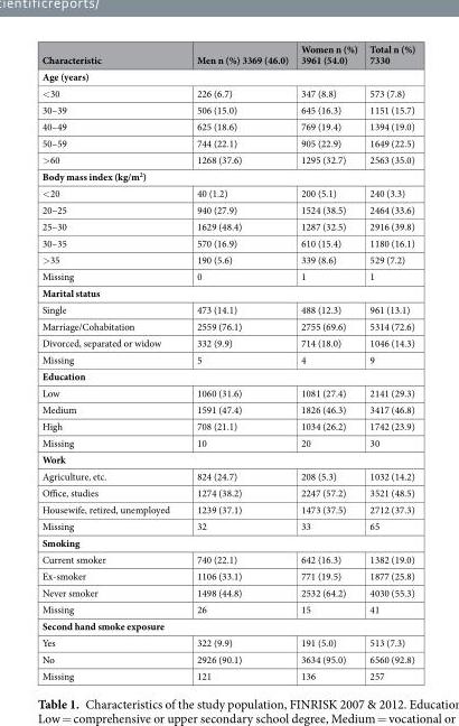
<table><thead><tr><td>Characteristic</td><td>Men n (%) 3369 (46.0)</td><td>Women n (%) 3961 (54.0)</td><td>Total n (%) 7330</td></tr></thead><tbody><tr><td colspan="4">Age (years)</td></tr><tr><td>&lt;30</td><td>226 (6.7)</td><td>347 (8.8)</td><td>573 (7.8)</td></tr><tr><td>30–39</td><td>506 (15.0)</td><td>645 (16.3)</td><td>1151 (15.7)</td></tr><tr><td>40–49</td><td>625 (18.6)</td><td>769 (19.4)</td><td>1394 (19.0)</td></tr><tr><td>50–59</td><td>744 (22.1)</td><td>905 (22.9)</td><td>1649 (22.5)</td></tr><tr><td>&gt;60</td><td>1268 (37.6)</td><td>1295 (32.7)</td><td>2563 (35.0)</td></tr><tr><td colspan="4">Body mass index (kg/m<sup>2</sup>)</td></tr><tr><td>&lt;20</td><td>40 (1.2)</td><td>200 (5.1)</td><td>240 (3.3)</td></tr><tr><td>20–25</td><td>940 (27.9)</td><td>1524 (38.5)</td><td>2464 (33.6)</td></tr><tr><td>25–30</td><td>1629 (48.4)</td><td>1287 (32.5)</td><td>2916 (39.8)</td></tr><tr><td>30–35</td><td>570 (16.9)</td><td>610 (15.4)</td><td>1180 (16.1)</td></tr><tr><td>&gt;35</td><td>190 (5.6)</td><td>339 (8.6)</td><td>529 (7.2)</td></tr><tr><td>Missing</td><td>0</td><td>1</td><td>1</td></tr><tr><td colspan="4">Marital status</td></tr><tr><td>Single</td><td>473 (14.1)</td><td>488 (12.3)</td><td>961 (13.1)</td></tr><tr><td>Marriage/Cohabitation</td><td>2559 (76.1)</td><td>2755 (69.6)</td><td>5314 (72.6)</td></tr><tr><td>Divorced, separated or widow</td><td>332 (9.9)</td><td>714 (18.0)</td><td>1046 (14.3)</td></tr><tr><td>Missing</td><td>5</td><td>4</td><td>9</td></tr><tr><td colspan="4">Education</td></tr><tr><td>Low</td><td>1060 (31.6)</td><td>1081 (27.4)</td><td>2141 (29.3)</td></tr><tr><td>Medium</td><td>1591 (47.4)</td><td>1826 (46.3)</td><td>3417 (46.8)</td></tr><tr><td>High</td><td>708 (21.1)</td><td>1034 (26.2)</td><td>1742 (23.9)</td></tr><tr><td>Missing</td><td>10</td><td>20</td><td>30</td></tr><tr><td colspan="4">Work</td></tr><tr><td>Agriculture, etc.</td><td>824 (24.7)</td><td>208 (5.3)</td><td>1032 (14.2)</td></tr><tr><td>Office, studies</td><td>1274 (38.2)</td><td>2247 (57.2)</td><td>3521 (48.5)</td></tr><tr><td>Housewife, retired, unemployed</td><td>1239 (37.1)</td><td>1473 (37.5)</td><td>2712 (37.3)</td></tr><tr><td>Missing</td><td>32</td><td>33</td><td>65</td></tr><tr><td colspan="4">Smoking</td></tr><tr><td>Current smoker</td><td>740 (22.1)</td><td>642 (16.3)</td><td>1382 (19.0)</td></tr><tr><td>Ex-smoker</td><td>1106 (33.1)</td><td>771 (19.5)</td><td>1877 (25.8)</td></tr><tr><td>Never smoker</td><td>1498 (44.8)</td><td>2532 (64.2)</td><td>4030 (55.3)</td></tr><tr><td>Missing</td><td>26</td><td>15</td><td>41</td></tr><tr><td colspan="4">Second hand smoke exposure</td></tr><tr><td>Yes</td><td>322 (9.9)</td><td>191 (5.0)</td><td>513 (7.3)</td></tr><tr><td>No</td><td>2926 (90.1)</td><td>3634 (95.0)</td><td>6560 (92.8)</td></tr><tr><td>Missing</td><td>121</td><td>136</td><td>257</td></tr></tbody></table>